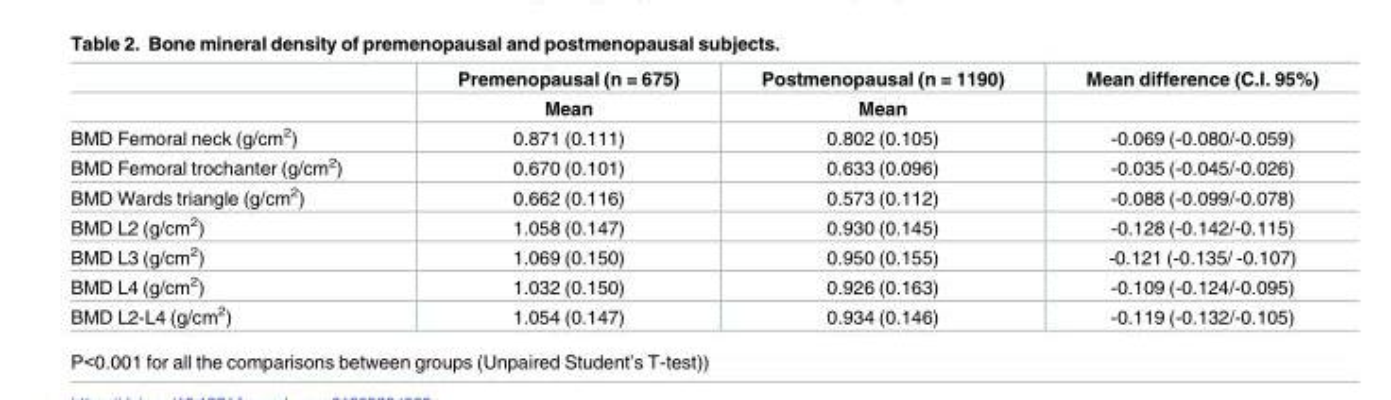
<table><thead><tr><td rowspan="2"></td><td rowspan="2">Premenopausal (n = 675) Mean</td><td rowspan="2">Postmenopausal (n = 1190) Mean</td><td rowspan="2">Mean difference (C.I. 95%)</td></tr><tr></tr></thead><tbody><tr><td>BMD Femoral neck (g/cm<sup>2</sup>)</td><td>0.871 (0.111)</td><td>0.802 (0.105)</td><td>-0.069 (-0.080/-0.059)</td></tr><tr><td>BMD Femoral trochanter (g/cm<sup>2</sup>)</td><td>0.670 (0.101)</td><td>0.633 (0.096)</td><td>-0.035 (-0.045/-0.026)</td></tr><tr><td>BMD Wards triangle (g/cm<sup>2</sup>)</td><td>0.662 (0.116)</td><td>0.573 (0.112)</td><td>-0.088 (-0.099/-0.078)</td></tr><tr><td>BMD L2 (g/cm<sup>2</sup>)</td><td>1.058 (0.147)</td><td>0.930 (0.145)</td><td>-0.128 (-0.142/-0.115)</td></tr><tr><td>BMD L3 (g/cm<sup>2</sup>)</td><td>1.069 (0.150)</td><td>0.950 (0.155)</td><td>-0.121 (-0.135/ -0.107)</td></tr><tr><td>BMD L4 (g/cm<sup>2</sup>)</td><td>1.032 (0.150)</td><td>0.926 (0.163)</td><td>-0.109 (-0.124/-0.095)</td></tr><tr><td>BMD L2-L4 (g/cm<sup>2</sup>)</td><td>1.054 (0.147)</td><td>0.934 (0.146)</td><td>-0.119 (-0.132/-0.105)</td></tr></tbody></table>